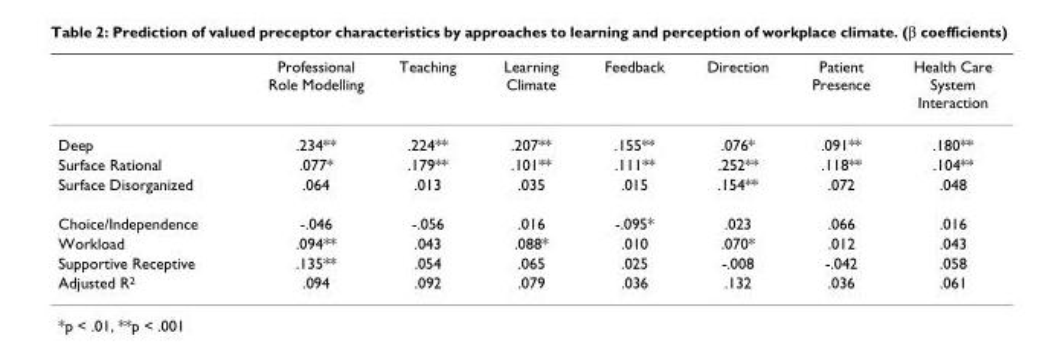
<table><thead><tr><td></td><td>Professional Role Modelling</td><td>Teaching</td><td>Learning Climate</td><td>Feedback</td><td>Direction</td><td>Patient Presence</td><td>Health Care System Interaction</td></tr></thead><tbody><tr><td>Deep</td><td>.234**</td><td>.224**</td><td>.207**</td><td>.155**</td><td>.076*</td><td>.091**</td><td>.180**</td></tr><tr><td>Surface Rational</td><td>.077*</td><td>.179**</td><td>.101**</td><td>.111**</td><td>.252**</td><td>.118**</td><td>.104**</td></tr><tr><td>Surface Disorganized</td><td>.064</td><td>.013</td><td>.035</td><td>.015</td><td>.154**</td><td>.072</td><td>.048</td></tr><tr><td>Choice/Independence</td><td>-.046</td><td>-.056</td><td>.016</td><td>-.095*</td><td>.023</td><td>.066</td><td>.016</td></tr><tr><td>Workload</td><td>.094**</td><td>.043</td><td>.088*</td><td>.010</td><td>.070*</td><td>.012</td><td>.043</td></tr><tr><td>Supportive Receptive</td><td>.135**</td><td>.054</td><td>.065</td><td>.025</td><td>-.008</td><td>-.042</td><td>.058</td></tr><tr><td>Adjusted R<sup>2</sup></td><td>.094</td><td>.092</td><td>.079</td><td>.036</td><td>.132</td><td>.036</td><td>.061</td></tr></tbody></table>